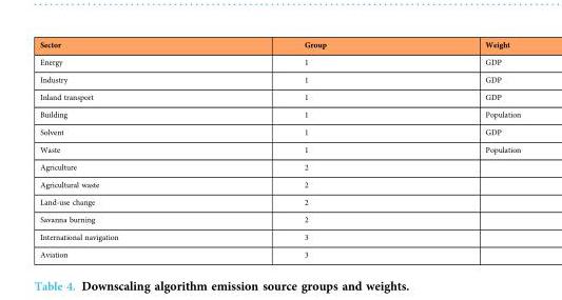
<table><thead><tr><td>Sector</td><td>Group</td><td>Weight</td></tr></thead><tbody><tr><td>Energy</td><td>1</td><td>GDP</td></tr><tr><td>Industry</td><td>1</td><td>GDP</td></tr><tr><td>Inland transport</td><td>1</td><td>GDP</td></tr><tr><td>Building</td><td>1</td><td>Population</td></tr><tr><td>Solvent</td><td>1</td><td>GDP</td></tr><tr><td>Waste</td><td>1</td><td>Population</td></tr><tr><td>Agriculture</td><td>2</td><td></td></tr><tr><td>Agricultural waste</td><td>2</td><td></td></tr><tr><td>Land-use change</td><td>2</td><td></td></tr><tr><td>Savanna burning</td><td>2</td><td></td></tr><tr><td>International navigation</td><td>3</td><td></td></tr><tr><td>Aviation</td><td>3</td><td></td></tr></tbody></table>